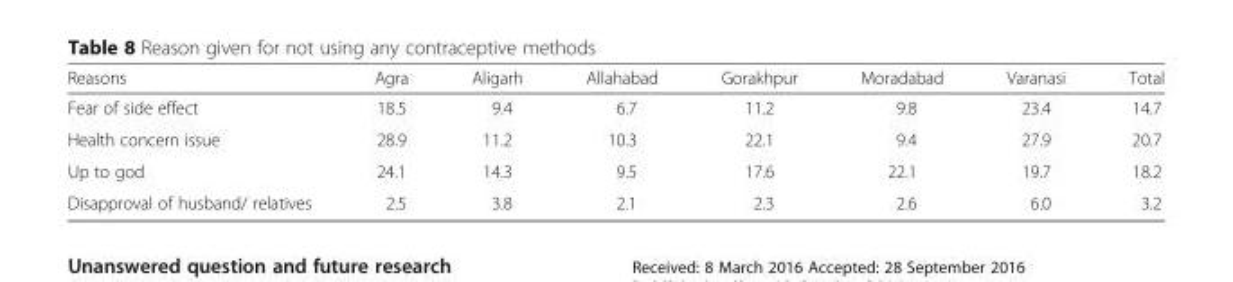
<table><thead><tr><td>Reasons</td><td>Agra</td><td>Aligarh</td><td>Allahabad</td><td>Gorakhpur</td><td>Moradabad</td><td>Varanasi</td><td>Total</td></tr></thead><tbody><tr><td>Fear of side effect</td><td>18.5</td><td>9.4</td><td>6.7</td><td>11.2</td><td>9.8</td><td>23.4</td><td>14.7</td></tr><tr><td>Health concern issue</td><td>28.9</td><td>11.2</td><td>10.3</td><td>22.1</td><td>9.4</td><td>27.9</td><td>20.7</td></tr><tr><td>Up to god</td><td>24.1</td><td>14.3</td><td>9.5</td><td>17.6</td><td>22.1</td><td>19.7</td><td>18.2</td></tr><tr><td>Disapproval of husband/ relatives</td><td>2.5</td><td>3.8</td><td>2.1</td><td>2.3</td><td>2.6</td><td>6.0</td><td>3.2</td></tr></tbody></table>